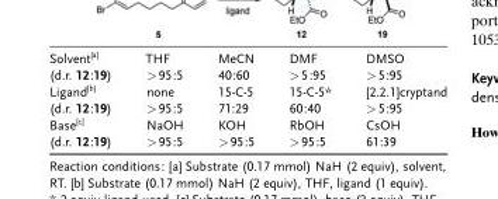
<table><tbody><tr><td>Solvent<sup>[a]</sup> (d.r. 12:19)</td><td>THF &gt;95:5</td><td>MeCN 40:60</td><td>DMF &gt;5:95</td><td>DMSO &gt;5:95</td></tr><tr><td>Ligand<sup>[b]</sup> (d.r. 12:19)</td><td>none &gt;95:5</td><td>15-C-5 71:29</td><td>15-C-5* 60:40</td><td>[2.2.1]cryptand &gt;5:95</td></tr><tr><td>Base<sup>[c]</sup> (d.r. 12:19)</td><td>NaOH &gt;95:5</td><td>KOH &gt;95:5</td><td>RbOH &gt;95:5</td><td>CsOH 61:39</td></tr></tbody></table>